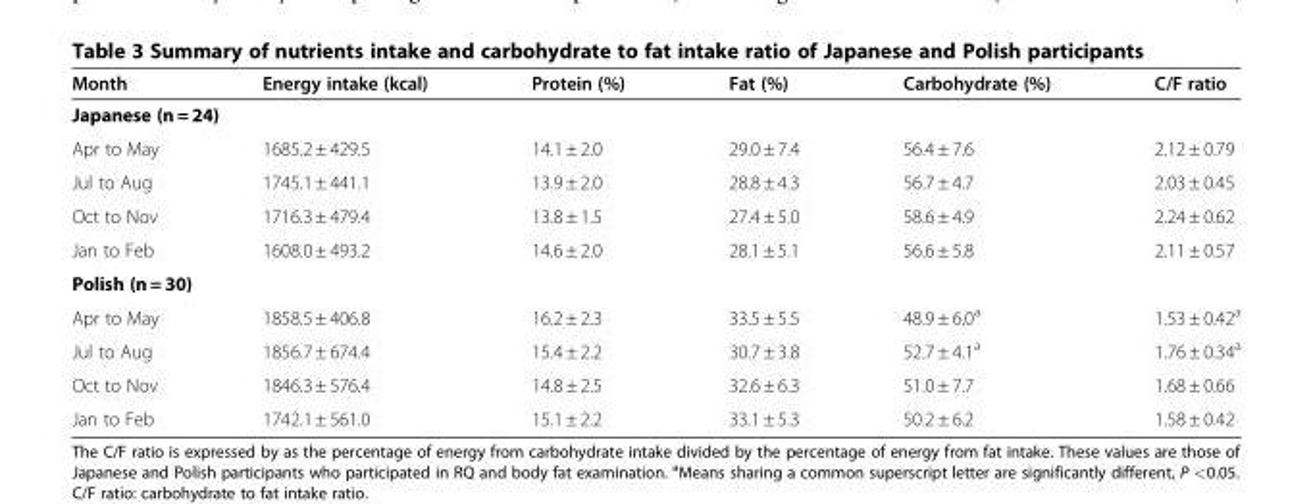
<table><thead><tr><td>Month</td><td>Energy intake (kcal)</td><td>Protein (%)</td><td>Fat (%)</td><td>Carbohydrate (%)</td><td>C/F ratio</td></tr></thead><tbody><tr><td colspan="6">Japanese (n = 24)</td></tr><tr><td>Apr to May</td><td>1685.2 ± 429.5</td><td>14.1 ± 2.0</td><td>29.0 ± 7.4</td><td>56.4 ± 7.6</td><td>2.12 ± 0.79</td></tr><tr><td>Jul to Aug</td><td>1745.1 ± 441.1</td><td>13.9 ± 2.0</td><td>28.8 ± 4.3</td><td>56.7 ± 4.7</td><td>2.03 ± 0.45</td></tr><tr><td>Oct to Nov</td><td>1716.3 ± 479.4</td><td>13.8 ± 1.5</td><td>27.4 ± 5.0</td><td>58.6 ± 4.9</td><td>2.24 ± 0.62</td></tr><tr><td>Jan to Feb</td><td>1608.0 ± 493.2</td><td>14.6 ± 2.0</td><td>28.1 ± 5.1</td><td>56.6 ± 5.8</td><td>2.11 ± 0.57</td></tr><tr><td colspan="6">Polish (n = 30)</td></tr><tr><td>Apr to May</td><td>1858.5 ± 406.8</td><td>16.2 ± 2.3</td><td>33.5 ± 5.5</td><td>48.9 ± 6.0<sup>a</sup></td><td>1.53 ± 0.42<sup>a</sup></td></tr><tr><td>Jul to Aug</td><td>1856.7 ± 674.4</td><td>15.4 ± 2.2</td><td>30.7 ± 3.8</td><td>52.7 ± 4.1<sup>a</sup></td><td>1.76 ± 0.34<sup>a</sup></td></tr><tr><td>Oct to Nov</td><td>1846.3 ± 576.4</td><td>14.8 ± 2.5</td><td>32.6 ± 6.3</td><td>51.0 ± 7.7</td><td>1.68 ± 0.66</td></tr><tr><td>Jan to Feb</td><td>1742.1 ± 561.0</td><td>15.1 ± 2.2</td><td>33.1 ± 5.3</td><td>50.2 ± 6.2</td><td>1.58 ± 0.42</td></tr></tbody></table>